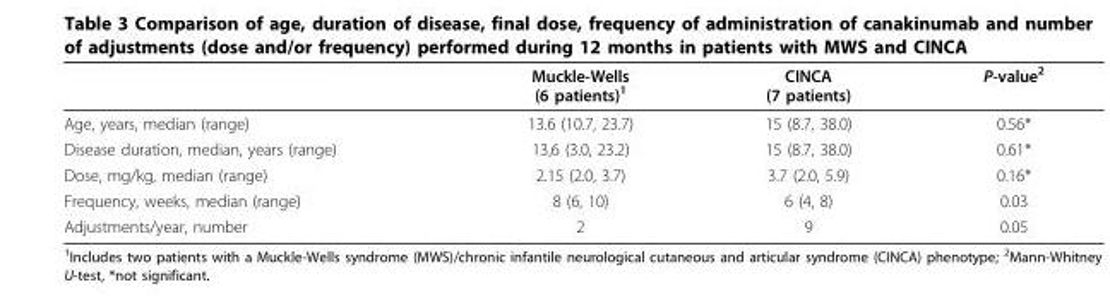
<table><thead><tr><td></td><td>Muckle-Wells (6 patients)<sup>1</sup></td><td>CINCA (7 patients)</td><td>P-value<sup>2</sup></td></tr></thead><tbody><tr><td>Age, years, median (range)</td><td>13.6 (10.7, 23.7)</td><td>15 (8.7, 38.0)</td><td>0.56*</td></tr><tr><td>Disease duration, median, years (range)</td><td>13,6 (3.0, 23.2)</td><td>15 (8.7, 38.0)</td><td>0.61*</td></tr><tr><td>Dose, mg/kg, median (range)</td><td>2.15 (2.0, 3.7)</td><td>3.7 (2.0, 5.9)</td><td>0.16*</td></tr><tr><td>Frequency, weeks, median (range)</td><td>8 (6, 10)</td><td>6 (4, 8)</td><td>0.03</td></tr><tr><td>Adjustments/year, number</td><td>2</td><td>9</td><td>0.05</td></tr></tbody></table>